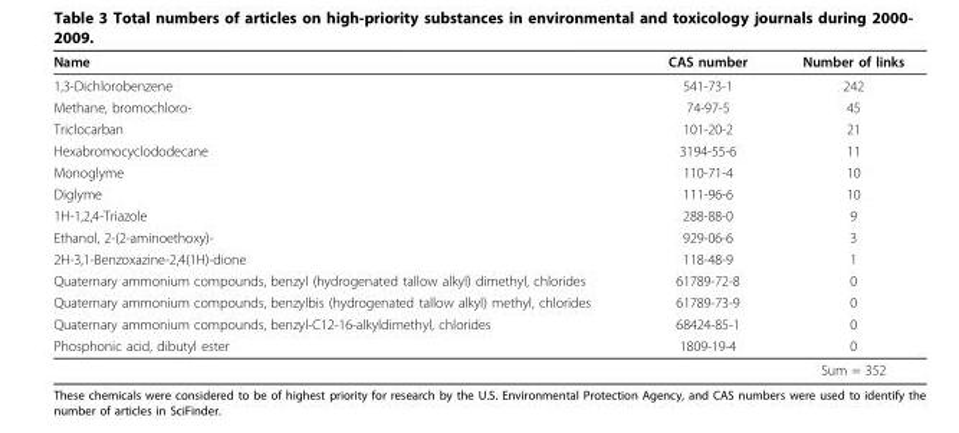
<table><thead><tr><td>Name</td><td>CAS number</td><td>Number of links</td></tr></thead><tbody><tr><td>1,3-Dichlorobenzene</td><td>541-73-1</td><td>242</td></tr><tr><td>Methane, bromochloro-</td><td>74-97-5</td><td>45</td></tr><tr><td>Triclocarban</td><td>101-20-2</td><td>21</td></tr><tr><td>Hexabromocyclododecane</td><td>3194-55-6</td><td>11</td></tr><tr><td>Monoglyme</td><td>110-71-4</td><td>10</td></tr><tr><td>Diglyme</td><td>111-96-6</td><td>10</td></tr><tr><td>1H-1,2,4-Triazole</td><td>288-88-0</td><td>9</td></tr><tr><td>Ethanol, 2-(2-aminoethoxy)-</td><td>929-06-6</td><td>3</td></tr><tr><td>2H-3,1-Benzoxazine-2,4(1H)-dione</td><td>118-48-9</td><td>1</td></tr><tr><td>Quaternary ammonium compounds, benzyl (hydrogenated tallow alkyl) dimethyl, chlorides</td><td>61789-72-8</td><td>0</td></tr><tr><td>Quaternary ammonium compounds, benzylbis (hydrogenated tallow alkyl) methyl, chlorides</td><td>61789-73-9</td><td>0</td></tr><tr><td>Quaternary ammonium compounds, benzyl-C12-16-alkyldimethyl, chlorides</td><td>68424-85-1</td><td>0</td></tr><tr><td rowspan="2">Phosphonic acid, dibutyl ester</td><td>1809-19-4</td><td>0</td></tr><tr><td></td><td>Sum = 352</td></tr></tbody></table>